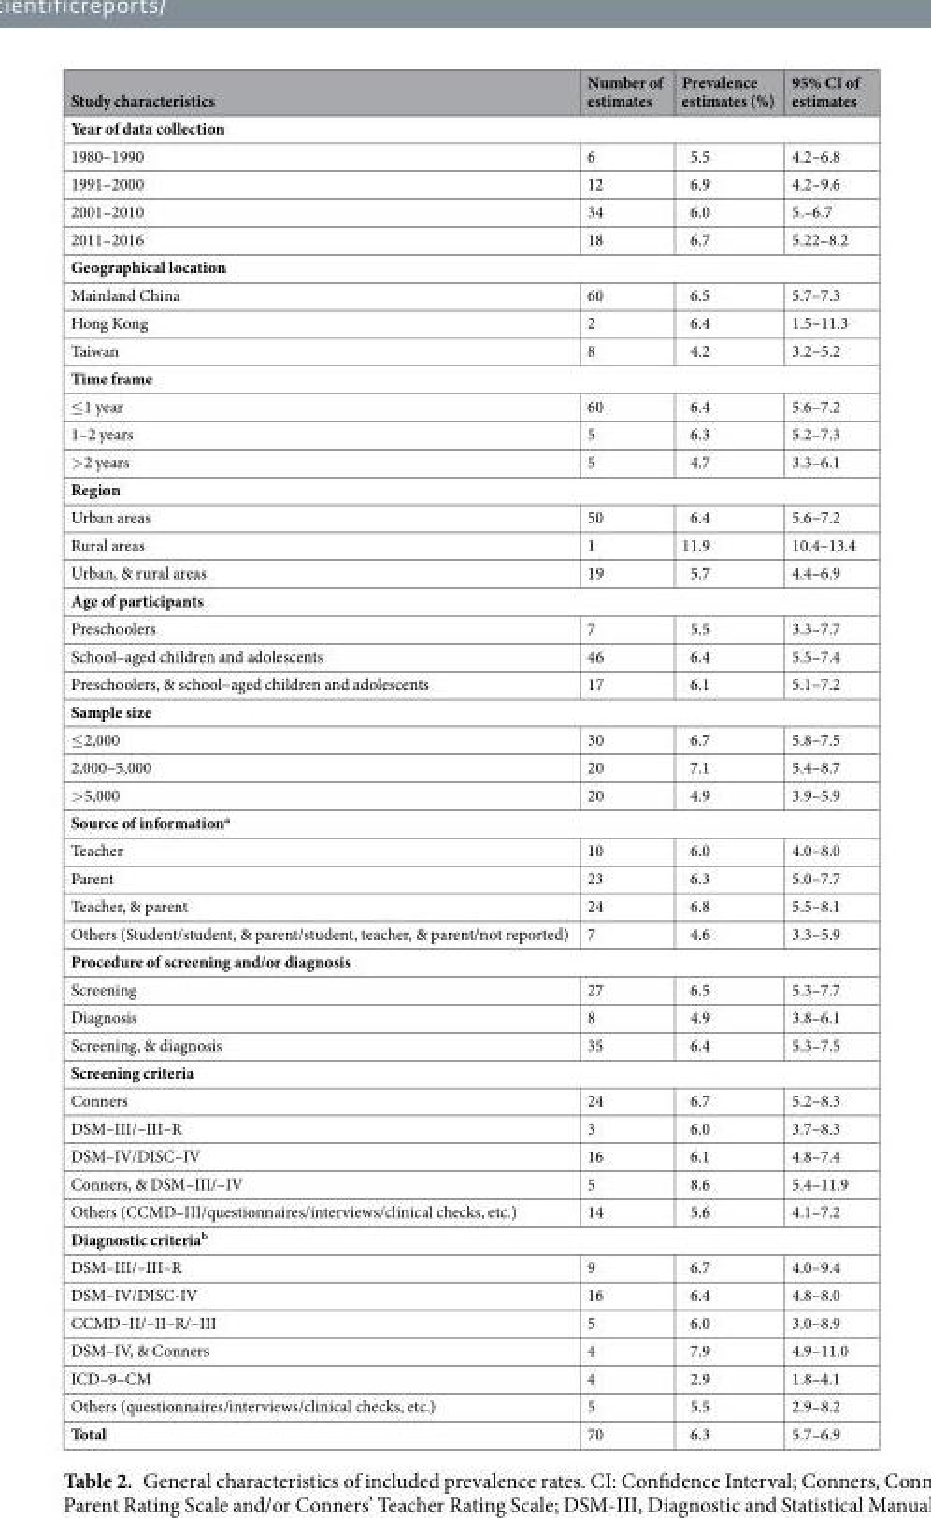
<table><thead><tr><td>Study characteristics</td><td>Number of estimates</td><td>Prevalence estimates (%)</td><td>95% CI of estimates</td></tr></thead><tbody><tr><td colspan="4">Year of data collection</td></tr><tr><td>1980–1990</td><td>6</td><td>5.5</td><td>4.2–6.8</td></tr><tr><td>1991–2000</td><td>12</td><td>6.9</td><td>4.2–9.6</td></tr><tr><td>2001–2010</td><td>34</td><td>6.0</td><td>5.–6.7</td></tr><tr><td>2011–2016</td><td>18</td><td>6.7</td><td>5.22–8.2</td></tr><tr><td colspan="4">Geographical location</td></tr><tr><td>Mainland China</td><td>60</td><td>6.5</td><td>5.7–7.3</td></tr><tr><td>Hong Kong</td><td>2</td><td>6.4</td><td>1.5–11.3</td></tr><tr><td>Taiwan</td><td>8</td><td>4.2</td><td>3.2–5.2</td></tr><tr><td colspan="4">Time frame</td></tr><tr><td>≤1 year</td><td>60</td><td>6.4</td><td>5.6–7.2</td></tr><tr><td>1–2 years</td><td>5</td><td>6.3</td><td>5.2–7.3</td></tr><tr><td>&gt;2 years</td><td>5</td><td>4.7</td><td>3.3–6.1</td></tr><tr><td colspan="4">Region</td></tr><tr><td>Urban areas</td><td>50</td><td>6.4</td><td>5.6–7.2</td></tr><tr><td>Rural areas</td><td>1</td><td>11.9</td><td>10.4–13.4</td></tr><tr><td>Urban, &amp; rural areas</td><td>19</td><td>5.7</td><td>4.4–6.9</td></tr><tr><td colspan="4">Age of participants</td></tr><tr><td>Preschoolers</td><td>7</td><td>5.5</td><td>3.3–7.7</td></tr><tr><td>School–aged children and adolescents</td><td>46</td><td>6.4</td><td>5.5–7.4</td></tr><tr><td>Preschoolers, &amp; school–aged children and adolescents</td><td>17</td><td>6.1</td><td>5.1–7.2</td></tr><tr><td colspan="4">Sample size</td></tr><tr><td>≤2,000</td><td>30</td><td>6.7</td><td>5.8–7.5</td></tr><tr><td>2,000–5,000</td><td>20</td><td>7.1</td><td>5.4–8.7</td></tr><tr><td>&gt;5,000</td><td>20</td><td>4.9</td><td>3.9–5.9</td></tr><tr><td colspan="4">Source of information<sup>a</sup></td></tr><tr><td>Teacher</td><td>10</td><td>6.0</td><td>4.0–8.0</td></tr><tr><td>Parent</td><td>23</td><td>6.3</td><td>5.0–7.7</td></tr><tr><td>Teacher, &amp; parent</td><td>24</td><td>6.8</td><td>5.5–8.1</td></tr><tr><td>Others (Student/student, &amp; parent/student, teacher, &amp; parent/not reported)</td><td>7</td><td>4.6</td><td>3.3–5.9</td></tr><tr><td colspan="4">Procedure of screening and/or diagnosis</td></tr><tr><td>Screening</td><td>27</td><td>6.5</td><td>5.3–7.7</td></tr><tr><td>Diagnosis</td><td>8</td><td>4.9</td><td>3.8–6.1</td></tr><tr><td>Screening, &amp; diagnosis</td><td>35</td><td>6.4</td><td>5.3–7.5</td></tr><tr><td colspan="4">Screening criteria</td></tr><tr><td>Conners</td><td>24</td><td>6.7</td><td>5.2–8.3</td></tr><tr><td>DSM–III/–III–R</td><td>3</td><td>6.0</td><td>3.7–8.3</td></tr><tr><td>DSM–IV/DISC–IV</td><td>16</td><td>6.1</td><td>4.8–7.4</td></tr><tr><td>Conners, &amp; DSM–III/–IV</td><td>5</td><td>8.6</td><td>5.4–11.9</td></tr><tr><td>Others (CCMD–III/questionnaires/interviews/clinical checks, etc.)</td><td>14</td><td>5.6</td><td>4.1–7.2</td></tr><tr><td colspan="4">Diagnostic criteria<sup>b</sup></td></tr><tr><td>DSM–III/–III–R</td><td>9</td><td>6.7</td><td>4.0–9.4</td></tr><tr><td>DSM–IV/DISC-IV</td><td>16</td><td>6.4</td><td>4.8–8.0</td></tr><tr><td>CCMD–II/–II–R/–III</td><td>5</td><td>6.0</td><td>3.0–8.9</td></tr><tr><td>DSM–IV, &amp; Conners</td><td>4</td><td>7.9</td><td>4.9–11.0</td></tr><tr><td>ICD–9–CM</td><td>4</td><td>2.9</td><td>1.8–4.1</td></tr><tr><td>Others (questionnaires/interviews/clinical checks, etc.)</td><td>5</td><td>5.5</td><td>2.9–8.2</td></tr><tr><td>Total</td><td>70</td><td>6.3</td><td>5.7–6.9</td></tr></tbody></table>